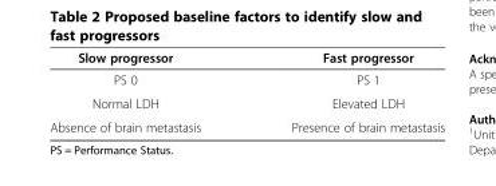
<table><thead><tr><td>Slow progressor</td><td>Fast progressor</td></tr></thead><tbody><tr><td>PS 0</td><td>PS 1</td></tr><tr><td>Normal LDH</td><td>Elevated LDH</td></tr><tr><td>Absence of brain metastasis</td><td>Presence of brain metastasis</td></tr></tbody></table>